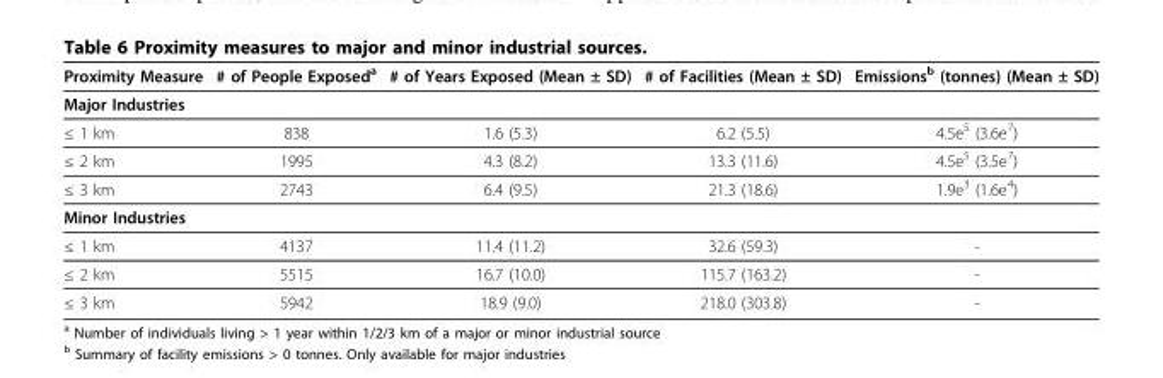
<table><thead><tr><td>Proximity Measure</td><td># of People Exposed<sup>a</sup></td><td># of Years Exposed (Mean ± SD)</td><td># of Facilities (Mean ± SD)</td><td>Emissions<sup>b</sup> (tonnes) (Mean ± SD)</td></tr></thead><tbody><tr><td colspan="5">Major Industries</td></tr><tr><td>≤ 1 km</td><td>838</td><td>1.6 (5.3)</td><td>6.2 (5.5)</td><td>4.5e<sup>5</sup> (3.6e<sup>7</sup>)</td></tr><tr><td>≤ 2 km</td><td>1995</td><td>4.3 (8.2)</td><td>13.3 (11.6)</td><td>4.5e<sup>5</sup> (3.5e<sup>7</sup>)</td></tr><tr><td>≤ 3 km</td><td>2743</td><td>6.4 (9.5)</td><td>21.3 (18.6)</td><td>1.9e<sup>3</sup> (1.6e<sup>4</sup>)</td></tr><tr><td colspan="5">Minor Industries</td></tr><tr><td>≤ 1 km</td><td>4137</td><td>11.4 (11.2)</td><td>32.6 (59.3)</td><td>-</td></tr><tr><td>≤ 2 km</td><td>5515</td><td>16.7 (10.0)</td><td>115.7 (163.2)</td><td>-</td></tr><tr><td>≤ 3 km</td><td>5942</td><td>18.9 (9.0)</td><td>218.0 (303.8)</td><td>-</td></tr></tbody></table>